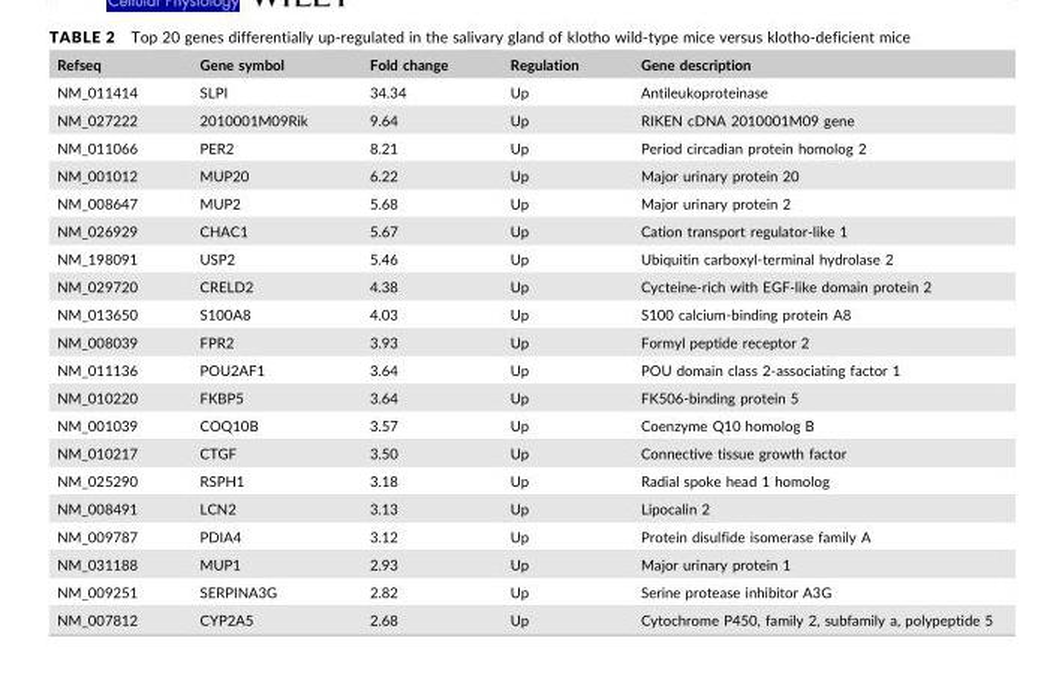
<table><thead><tr><td>Refseq</td><td>Gene symbol</td><td>Fold change</td><td>Regulation</td><td>Gene description</td></tr></thead><tbody><tr><td>NM_011414</td><td>SLPI</td><td>34.34</td><td>Up</td><td>Antileukoproteinase</td></tr><tr><td>NM_027222</td><td>2010001M09Rik</td><td>9.64</td><td>Up</td><td>RIKEN cDNA 2010001M09 gene</td></tr><tr><td>NM_011066</td><td>PER2</td><td>8.21</td><td>Up</td><td>Period circadian protein homolog 2</td></tr><tr><td>NM_001012</td><td>MUP20</td><td>6.22</td><td>Up</td><td>Major urinary protein 20</td></tr><tr><td>NM_008647</td><td>MUP2</td><td>5.68</td><td>Up</td><td>Major urinary protein 2</td></tr><tr><td>NM_026929</td><td>CHAC1</td><td>5.67</td><td>Up</td><td>Cation transport regulator-like 1</td></tr><tr><td>NM_198091</td><td>USP2</td><td>5.46</td><td>Up</td><td>Ubiquitin carboxyl-terminal hydrolase 2</td></tr><tr><td>NM_029720</td><td>CRELD2</td><td>4.38</td><td>Up</td><td>Cycteine-rich with EGF-like domain protein 2</td></tr><tr><td>NM_013650</td><td>S100A8</td><td>4.03</td><td>Up</td><td>S100 calcium-binding protein A8</td></tr><tr><td>NM_008039</td><td>FPR2</td><td>3.93</td><td>Up</td><td>Formyl peptide receptor 2</td></tr><tr><td>NM_011136</td><td>POU2AF1</td><td>3.64</td><td>Up</td><td>POU domain class 2-associating factor 1</td></tr><tr><td>NM_010220</td><td>FKBP5</td><td>3.64</td><td>Up</td><td>FK506-binding protein 5</td></tr><tr><td>NM_001039</td><td>COQ10B</td><td>3.57</td><td>Up</td><td>Coenzyme Q10 homolog B</td></tr><tr><td>NM_010217</td><td>CTGF</td><td>3.50</td><td>Up</td><td>Connective tissue growth factor</td></tr><tr><td>NM_025290</td><td>RSPH1</td><td>3.18</td><td>Up</td><td>Radial spoke head 1 homolog</td></tr><tr><td>NM_008491</td><td>LCN2</td><td>3.13</td><td>Up</td><td>Lipocalin 2</td></tr><tr><td>NM_009787</td><td>PDIA4</td><td>3.12</td><td>Up</td><td>Protein disulfide isomerase family A</td></tr><tr><td>NM_031188</td><td>MUP1</td><td>2.93</td><td>Up</td><td>Major urinary protein 1</td></tr><tr><td>NM_009251</td><td>SERPINA3G</td><td>2.82</td><td>Up</td><td>Serine protease inhibitor A3G</td></tr><tr><td>NM_007812</td><td>CYP2A5</td><td>2.68</td><td>Up</td><td>Cytochrome P450, family 2, subfamily a, polypeptide 5</td></tr></tbody></table>